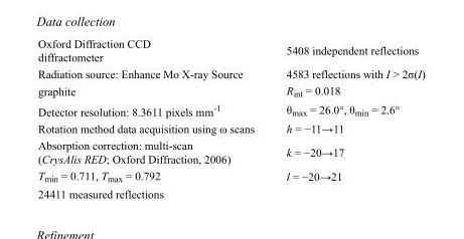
<table><tbody><tr><td>Oxford Diffraction CCD diffractometer</td><td>5408 independent reflections</td></tr><tr><td>Radiation source: Enhance Mo X-ray Source</td><td>4583 reflections with I &gt; 2σ(I)</td></tr><tr><td>graphite</td><td>R<sub>int</sub> = 0.018</td></tr><tr><td>Detector resolution: 8.3611 pixels mm<sup>-1</sup></td><td>θ<sub>max</sub> = 26.0°, θ<sub>min</sub> = 2.6°</td></tr><tr><td>Rotation method data acquisition using ω scans</td><td>h = −11→11</td></tr><tr><td>Absorption correction: multi-scan (CrysAlis RED; Oxford Diffraction, 2006)</td><td>k = −20→17</td></tr><tr><td>T<sub>min</sub> = 0.711, T<sub>max</sub> = 0.792</td><td>l = −20→21</td></tr><tr><td>24411 measured reflections</td><td></td></tr></tbody></table>